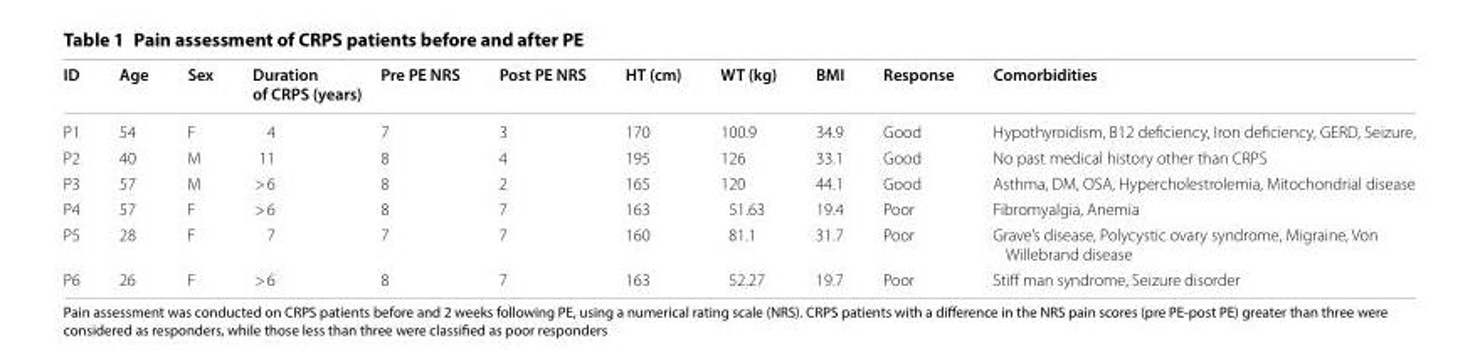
<table><thead><tr><td>ID</td><td>Age</td><td>Sex</td><td>Duration of CRPS (years)</td><td>Pre PE NRS</td><td>Post PE NRS</td><td>HT (cm)</td><td>WT (kg)</td><td>BMI</td><td>Response</td><td>Comorbidities</td></tr></thead><tbody><tr><td>P1</td><td>54</td><td>F</td><td>4</td><td>7</td><td>3</td><td>170</td><td>100.9</td><td>34.9</td><td>Good</td><td>Hypothyroidism, B12 deficiency, Iron deficiency, GERD, Seizure,</td></tr><tr><td>P2</td><td>40</td><td>M</td><td>11</td><td>8</td><td>4</td><td>195</td><td>126</td><td>33.1</td><td>Good</td><td>No past medical history other than CRPS</td></tr><tr><td>P3</td><td>57</td><td>M</td><td>&gt; 6</td><td>8</td><td>2</td><td>165</td><td>120</td><td>44.1</td><td>Good</td><td>Asthma, DM, OSA, Hypercholestrolemia, Mitochondrial disease</td></tr><tr><td>P4</td><td>57</td><td>F</td><td>&gt; 6</td><td>8</td><td>7</td><td>163</td><td>51.63</td><td>19.4</td><td>Poor</td><td>Fibromyalgia, Anemia</td></tr><tr><td>P5</td><td>28</td><td>F</td><td>7</td><td>7</td><td>7</td><td>160</td><td>81.1</td><td>31.7</td><td>Poor</td><td>Grave’s disease, Polycystic ovary syndrome, Migraine, Von Willebrand disease</td></tr><tr><td>P6</td><td>26</td><td>F</td><td>&gt; 6</td><td>8</td><td>7</td><td>163</td><td>52.27</td><td>19.7</td><td>Poor</td><td>Stiff man syndrome, Seizure disorder</td></tr></tbody></table>